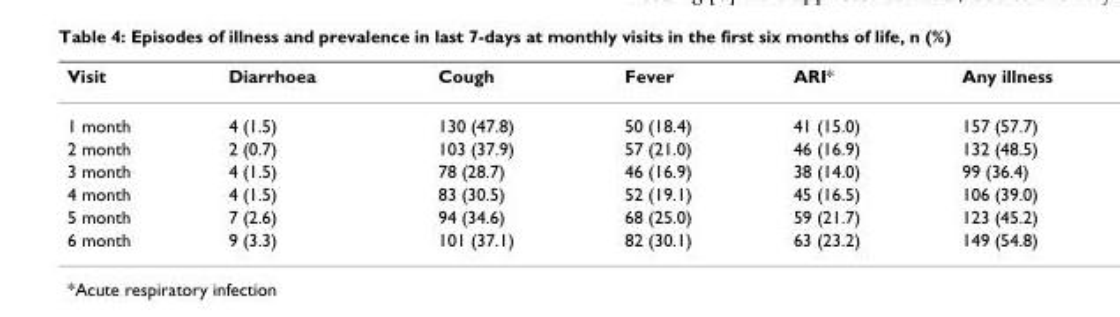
<table><thead><tr><td>Visit</td><td>Diarrhoea</td><td>Cough</td><td>Fever</td><td>ARI*</td><td>Any illness</td></tr></thead><tbody><tr><td>1 month</td><td>4 (1.5)</td><td>130 (47.8)</td><td>50 (18.4)</td><td>41 (15.0)</td><td>157 (57.7)</td></tr><tr><td>2 month</td><td>2 (0.7)</td><td>103 (37.9)</td><td>57 (21.0)</td><td>46 (16.9)</td><td>132 (48.5)</td></tr><tr><td>3 month</td><td>4 (1.5)</td><td>78 (28.7)</td><td>46 (16.9)</td><td>38 (14.0)</td><td>99 (36.4)</td></tr><tr><td>4 month</td><td>4 (1.5)</td><td>83 (30.5)</td><td>52 (19.1)</td><td>45 (16.5)</td><td>106 (39.0)</td></tr><tr><td>5 month</td><td>7 (2.6)</td><td>94 (34.6)</td><td>68 (25.0)</td><td>59 (21.7)</td><td>123 (45.2)</td></tr><tr><td>6 month</td><td>9 (3.3)</td><td>101 (37.1)</td><td>82 (30.1)</td><td>63 (23.2)</td><td>149 (54.8)</td></tr></tbody></table>